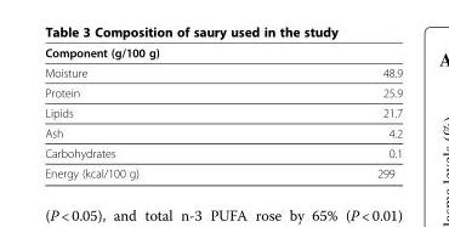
<table><thead><tr><td colspan="2">Component (g/100 g)</td></tr><tr><td>Moisture</td><td>48.9</td></tr></thead><tbody><tr><td>Protein</td><td>25.9</td></tr><tr><td>Lipids</td><td>21.7</td></tr><tr><td>Ash</td><td>4.2</td></tr><tr><td>Carbohydrates</td><td>0.1</td></tr><tr><td>Energy (kcal/100 g)</td><td>299</td></tr></tbody></table>